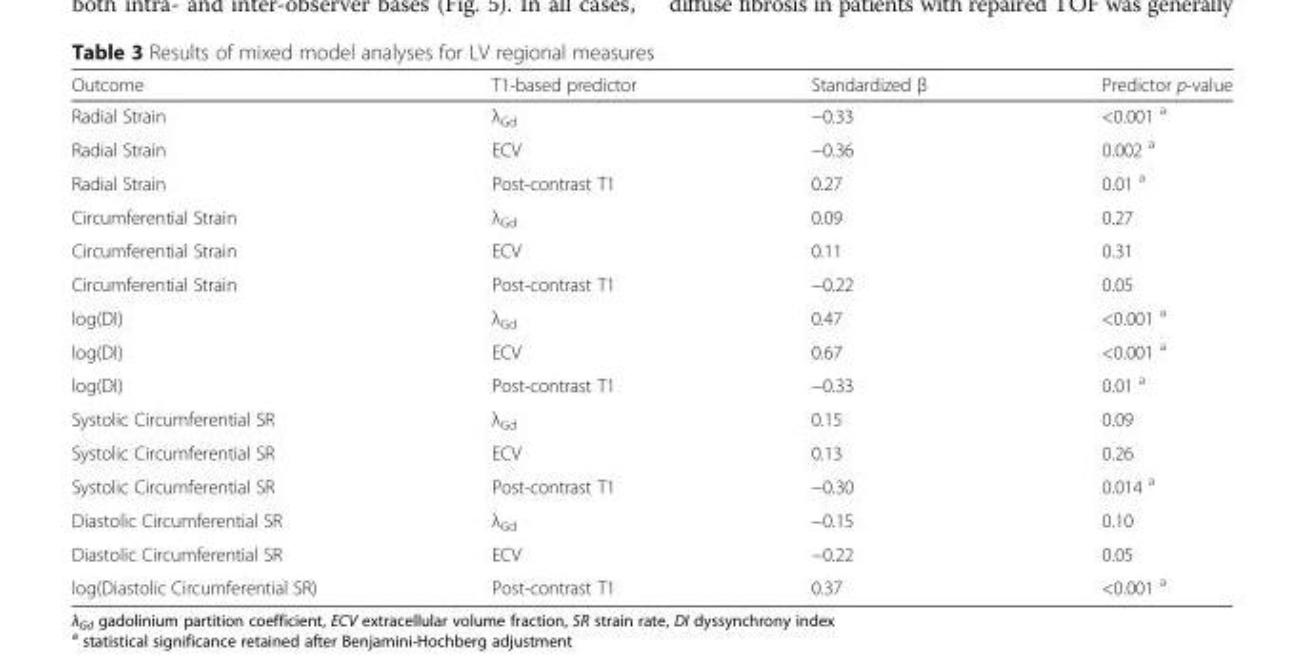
<table><thead><tr><td>Outcome</td><td>T1-based predictor</td><td>Standardized β</td><td>Predictor p-value</td></tr></thead><tbody><tr><td>Radial Strain</td><td>λ<sub>Gd</sub></td><td>−0.33</td><td>&lt;0.001 <sup>a</sup></td></tr><tr><td>Radial Strain</td><td>ECV</td><td>−0.36</td><td>0.002 <sup>a</sup></td></tr><tr><td>Radial Strain</td><td>Post-contrast T1</td><td>0.27</td><td>0.01 <sup>a</sup></td></tr><tr><td>Circumferential Strain</td><td>λ<sub>Gd</sub></td><td>0.09</td><td>0.27</td></tr><tr><td>Circumferential Strain</td><td>ECV</td><td>0.11</td><td>0.31</td></tr><tr><td>Circumferential Strain</td><td>Post-contrast T1</td><td>−0.22</td><td>0.05</td></tr><tr><td>log(DI)</td><td>λ<sub>Gd</sub></td><td>0.47</td><td>&lt;0.001 <sup>a</sup></td></tr><tr><td>log(DI)</td><td>ECV</td><td>0.67</td><td>&lt;0.001 <sup>a</sup></td></tr><tr><td>log(DI)</td><td>Post-contrast T1</td><td>−0.33</td><td>0.01 <sup>a</sup></td></tr><tr><td>Systolic Circumferential SR</td><td>λ<sub>Gd</sub></td><td>0.15</td><td>0.09</td></tr><tr><td>Systolic Circumferential SR</td><td>ECV</td><td>0.13</td><td>0.26</td></tr><tr><td>Systolic Circumferential SR</td><td>Post-contrast T1</td><td>−0.30</td><td>0.014 <sup>a</sup></td></tr><tr><td>Diastolic Circumferential SR</td><td>λ<sub>Gd</sub></td><td>−0.15</td><td>0.10</td></tr><tr><td>Diastolic Circumferential SR</td><td>ECV</td><td>−0.22</td><td>0.05</td></tr><tr><td>log(Diastolic Circumferential SR)</td><td>Post-contrast T1</td><td>0.37</td><td>&lt;0.001 <sup>a</sup></td></tr></tbody></table>